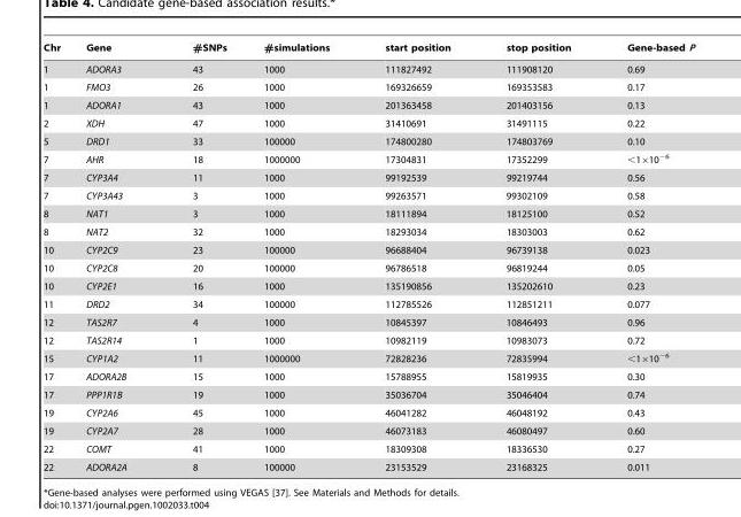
<table><thead><tr><td>Chr</td><td>Gene</td><td>#SNPs</td><td>#simulations</td><td>start position</td><td>stop position</td><td>Gene-based P</td></tr></thead><tbody><tr><td>1</td><td>ADORA3</td><td>43</td><td>1000</td><td>111827492</td><td>111908120</td><td>0.69</td></tr><tr><td>1</td><td>FMO3</td><td>26</td><td>1000</td><td>169326659</td><td>169353583</td><td>0.17</td></tr><tr><td>1</td><td>ADORA1</td><td>43</td><td>1000</td><td>201363458</td><td>201403156</td><td>0.13</td></tr><tr><td>2</td><td>XDH</td><td>47</td><td>1000</td><td>31410691</td><td>31491115</td><td>0.22</td></tr><tr><td>5</td><td>DRD1</td><td>33</td><td>100000</td><td>174800280</td><td>174803769</td><td>0.10</td></tr><tr><td>7</td><td>AHR</td><td>18</td><td>1000000</td><td>17304831</td><td>17352299</td><td>&lt;1×10<sup>−6</sup></td></tr><tr><td>7</td><td>CYP3A4</td><td>11</td><td>1000</td><td>99192539</td><td>99219744</td><td>0.56</td></tr><tr><td>7</td><td>CYP3A43</td><td>3</td><td>1000</td><td>99263571</td><td>99302109</td><td>0.58</td></tr><tr><td>8</td><td>NAT1</td><td>3</td><td>1000</td><td>18111894</td><td>18125100</td><td>0.52</td></tr><tr><td>8</td><td>NAT2</td><td>32</td><td>1000</td><td>18293034</td><td>18303003</td><td>0.62</td></tr><tr><td>10</td><td>CYP2C9</td><td>23</td><td>100000</td><td>96688404</td><td>96739138</td><td>0.023</td></tr><tr><td>10</td><td>CYP2C8</td><td>20</td><td>100000</td><td>96786518</td><td>96819244</td><td>0.05</td></tr><tr><td>10</td><td>CYP2E1</td><td>16</td><td>1000</td><td>135190856</td><td>135202610</td><td>0.23</td></tr><tr><td>11</td><td>DRD2</td><td>34</td><td>100000</td><td>112785526</td><td>112851211</td><td>0.077</td></tr><tr><td>12</td><td>TAS2R7</td><td>4</td><td>1000</td><td>10845397</td><td>10846493</td><td>0.96</td></tr><tr><td>12</td><td>TAS2R14</td><td>1</td><td>1000</td><td>10982119</td><td>10983073</td><td>0.72</td></tr><tr><td>15</td><td>CYP1A2</td><td>11</td><td>1000000</td><td>72828236</td><td>72835994</td><td>&lt;1×10<sup>−6</sup></td></tr><tr><td>17</td><td>ADORA2B</td><td>15</td><td>1000</td><td>15788955</td><td>15819935</td><td>0.30</td></tr><tr><td>17</td><td>PPP1R1B</td><td>19</td><td>1000</td><td>35036704</td><td>35046404</td><td>0.74</td></tr><tr><td>19</td><td>CYP2A6</td><td>45</td><td>1000</td><td>46041282</td><td>46048192</td><td>0.43</td></tr><tr><td>19</td><td>CYP2A7</td><td>28</td><td>1000</td><td>46073183</td><td>46080497</td><td>0.60</td></tr><tr><td>22</td><td>COMT</td><td>41</td><td>1000</td><td>18309308</td><td>18336530</td><td>0.27</td></tr><tr><td>22</td><td>ADORA2A</td><td>8</td><td>100000</td><td>23153529</td><td>23168325</td><td>0.011</td></tr></tbody></table>